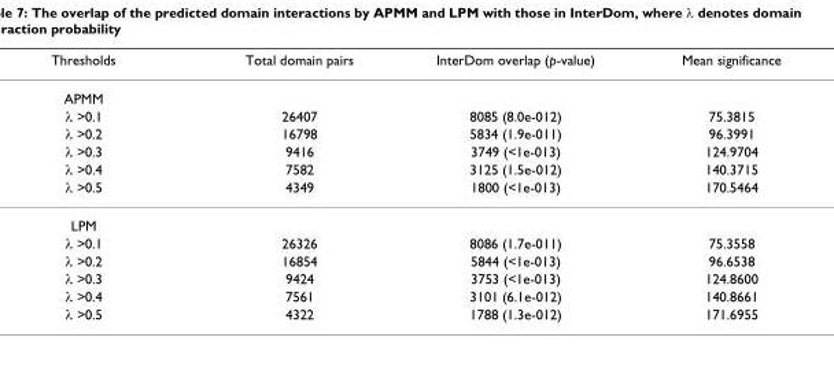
<table><thead><tr><td>Thresholds</td><td>Total domain pairs</td><td>InterDom overlap (p-value)</td><td>Mean significance</td></tr></thead><tbody><tr><td colspan="4">APMM</td></tr><tr><td>λ &gt;0.1</td><td>26407</td><td>8085 (8.0e-012)</td><td>75.3815</td></tr><tr><td>λ &gt;0.2</td><td>16798</td><td>5834 (1.9e-011)</td><td>96.3991</td></tr><tr><td>λ &gt;0.3</td><td>9416</td><td>3749 (&lt;1e-013)</td><td>124.9704</td></tr><tr><td>λ &gt;0.4</td><td>7582</td><td>3125 (1.5e-012)</td><td>140.3715</td></tr><tr><td>λ &gt;0.5</td><td>4349</td><td>1800 (&lt;1e-013)</td><td>170.5464</td></tr><tr><td colspan="4">LPM</td></tr><tr><td>λ &gt;0.1</td><td>26326</td><td>8086 (1.7e-011)</td><td>75.3558</td></tr><tr><td>λ &gt;0.2</td><td>16854</td><td>5844 (&lt;1e-013)</td><td>96.6538</td></tr><tr><td>λ &gt;0.3</td><td>9424</td><td>3753 (&lt;1e-013)</td><td>124.8600</td></tr><tr><td>λ &gt;0.4</td><td>7561</td><td>3101 (6.1e-012)</td><td>140.8661</td></tr><tr><td>λ &gt;0.5</td><td>4322</td><td>1788 (1.3e-012)</td><td>171.6955</td></tr></tbody></table>